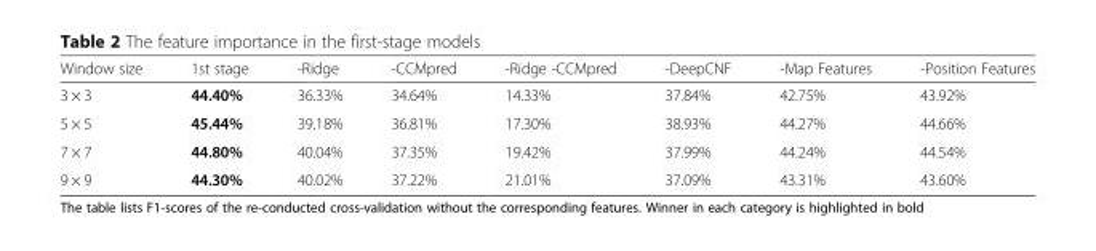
<table><thead><tr><td>Window size</td><td>1st stage</td><td>-Ridge</td><td>-CCMpred</td><td>-Ridge -CCMpred</td><td>-DeepCNF</td><td>-Map Features</td><td>-Position Features</td></tr></thead><tbody><tr><td>3 × 3</td><td>44.40%</td><td>36.33%</td><td>34.64%</td><td>14.33%</td><td>37.84%</td><td>42.75%</td><td>43.92%</td></tr><tr><td>5 × 5</td><td>45.44%</td><td>39.18%</td><td>36.81%</td><td>17.30%</td><td>38.93%</td><td>44.27%</td><td>44.66%</td></tr><tr><td>7 × 7</td><td>44.80%</td><td>40.04%</td><td>37.35%</td><td>19.42%</td><td>37.99%</td><td>44.24%</td><td>44.54%</td></tr><tr><td>9 × 9</td><td>44.30%</td><td>40.02%</td><td>37.22%</td><td>21.01%</td><td>37.09%</td><td>43.31%</td><td>43.60%</td></tr></tbody></table>